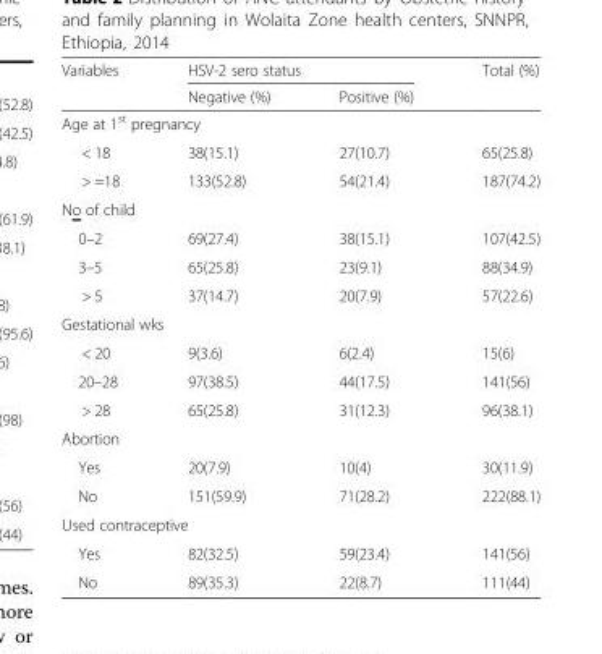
<table><thead><tr><td rowspan="2">Variables</td><td colspan="2">HSV-2 sero status</td><td rowspan="2">Total (%)</td></tr><tr><td>Negative (%)</td><td>Positive (%)</td></tr></thead><tbody><tr><td colspan="4">Age at 1<sup>st</sup> pregnancy</td></tr><tr><td>&lt; 18</td><td>38(15.1)</td><td>27(10.7)</td><td>65(25.8)</td></tr><tr><td>&gt; =18</td><td>133(52.8)</td><td>54(21.4)</td><td>187(74.2)</td></tr><tr><td colspan="4">No of child</td></tr><tr><td>0–2</td><td>69(27.4)</td><td>38(15.1)</td><td>107(42.5)</td></tr><tr><td>3–5</td><td>65(25.8)</td><td>23(9.1)</td><td>88(34.9)</td></tr><tr><td>&gt; 5</td><td>37(14.7)</td><td>20(7.9)</td><td>57(22.6)</td></tr><tr><td colspan="4">Gestational wks</td></tr><tr><td>&lt; 20</td><td>9(3.6)</td><td>6(2.4)</td><td>15(6)</td></tr><tr><td>20–28</td><td>97(38.5)</td><td>44(17.5)</td><td>141(56)</td></tr><tr><td>&gt; 28</td><td>65(25.8)</td><td>31(12.3)</td><td>96(38.1)</td></tr><tr><td colspan="4">Abortion</td></tr><tr><td>Yes</td><td>20(7.9)</td><td>10(4)</td><td>30(11.9)</td></tr><tr><td>No</td><td>151(59.9)</td><td>71(28.2)</td><td>222(88.1)</td></tr><tr><td colspan="4">Used contraceptive</td></tr><tr><td>Yes</td><td>82(32.5)</td><td>59(23.4)</td><td>141(56)</td></tr><tr><td>No</td><td>89(35.3)</td><td>22(8.7)</td><td>111(44)</td></tr></tbody></table>